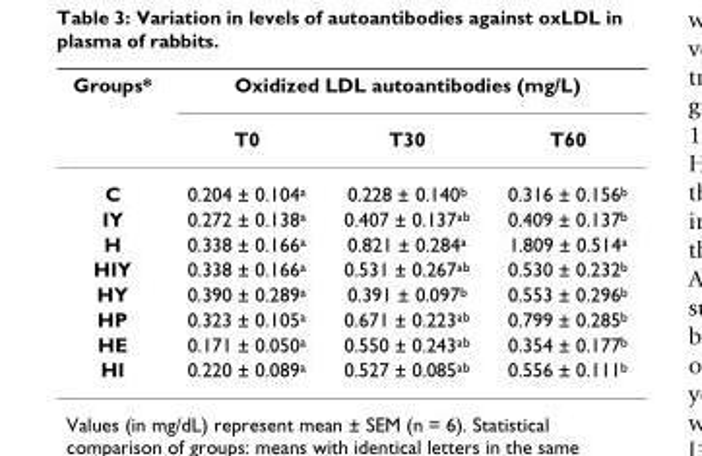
<table><thead><tr><td rowspan="2">Groups*</td><td colspan="3">Oxidized LDL autoantibodies (mg/L)</td></tr><tr><td>T0</td><td>T30</td><td>T60</td></tr></thead><tbody><tr><td>C</td><td>0.204 ± 0.104<sup>a</sup></td><td>0.228 ± 0.140<sup>b</sup></td><td>0.316 ± 0.156<sup>b</sup></td></tr><tr><td>IY</td><td>0.272 ± 0.138<sup>a</sup></td><td>0.407 ± 0.137<sup>ab</sup></td><td>0.409 ± 0.137<sup>b</sup></td></tr><tr><td>H</td><td>0.338 ± 0.166<sup>a</sup></td><td>0.821 ± 0.284<sup>a</sup></td><td>1.809 ± 0.514<sup>a</sup></td></tr><tr><td>HIY</td><td>0.338 ± 0.166<sup>a</sup></td><td>0.531 ± 0.267<sup>ab</sup></td><td>0.530 ± 0.232<sup>b</sup></td></tr><tr><td>HY</td><td>0.390 ± 0.289<sup>a</sup></td><td>0.391 ± 0.097<sup>b</sup></td><td>0.553 ± 0.296<sup>b</sup></td></tr><tr><td>HP</td><td>0.323 ± 0.105<sup>a</sup></td><td>0.671 ± 0.223<sup>ab</sup></td><td>0.799 ± 0.285<sup>b</sup></td></tr><tr><td>HE</td><td>0.171 ± 0.050<sup>a</sup></td><td>0.550 ± 0.243<sup>ab</sup></td><td>0.354 ± 0.177<sup>b</sup></td></tr><tr><td>HI</td><td>0.220 ± 0.089<sup>a</sup></td><td>0.527 ± 0.085<sup>ab</sup></td><td>0.556 ± 0.111<sup>b</sup></td></tr></tbody></table>